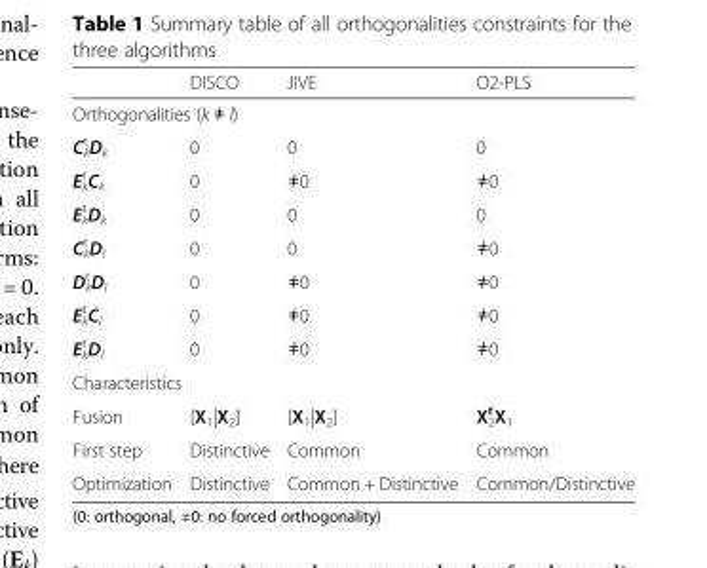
<table><thead><tr><td></td><td>DISCO</td><td>JIVE</td><td>O2-PLS</td></tr></thead><tbody><tr><td colspan="4">Orthogonalities (k ≠ l)</td></tr><tr><td>C<sub>k</sub> <sup>t</sup>D<sub>k</sub></td><td>0</td><td>0</td><td>0</td></tr><tr><td>E<sub>k</sub> <sup>t</sup>C<sub>k</sub></td><td>0</td><td>≠0</td><td>≠0</td></tr><tr><td>E<sub>k</sub> <sup>t</sup>D<sub>k</sub></td><td>0</td><td>0</td><td>0</td></tr><tr><td>C<sub>k</sub> <sup>t</sup>D<sub>l</sub></td><td>0</td><td>0</td><td>≠0</td></tr><tr><td>D<sub>k</sub> <sup>t</sup>D<sub>l</sub></td><td>0</td><td>≠0</td><td>≠0</td></tr><tr><td>E<sub>k</sub> <sup>t</sup>C<sub>l</sub></td><td>0</td><td>≠0</td><td>≠0</td></tr><tr><td>E<sub>k</sub> <sup>t</sup>D<sub>l</sub></td><td>0</td><td>≠0</td><td>≠0</td></tr><tr><td colspan="4">Characteristics</td></tr><tr><td>Fusion</td><td>[X<sub>1</sub>|X<sub>2</sub>]</td><td>[X<sub>1</sub>|X<sub>2</sub>]</td><td>X<sub>2</sub> <sup>t</sup>X<sub>1</sub></td></tr><tr><td>First step</td><td>Distinctive</td><td>Common</td><td>Common</td></tr><tr><td>Optimization</td><td>Distinctive</td><td>Common + Distinctive</td><td>Common/Distinctive</td></tr></tbody></table>